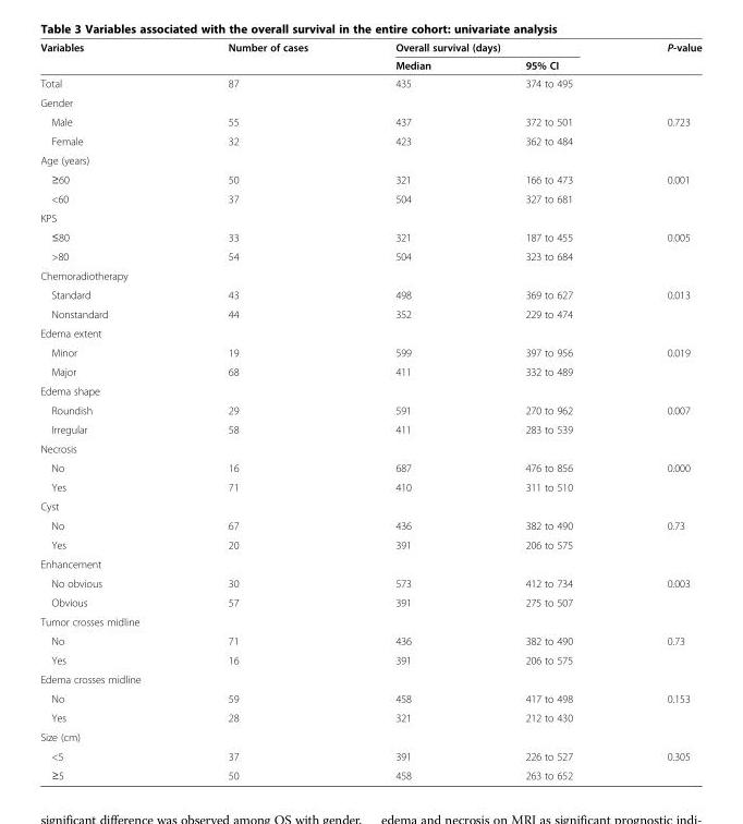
<table><thead><tr><td rowspan="2">Variables</td><td rowspan="2">Number of cases</td><td colspan="2">Overall survival (days)</td><td rowspan="2">P-value</td></tr><tr><td>Median</td><td>95% CI</td></tr></thead><tbody><tr><td>Total</td><td>87</td><td>435</td><td>374 to 495</td><td></td></tr><tr><td colspan="5">Gender</td></tr><tr><td>Male</td><td>55</td><td>437</td><td>372 to 501</td><td>0.723</td></tr><tr><td>Female</td><td>32</td><td>423</td><td>362 to 484</td><td></td></tr><tr><td colspan="5">Age (years)</td></tr><tr><td>≥60</td><td>50</td><td>321</td><td>166 to 473</td><td>0.001</td></tr><tr><td>&lt;60</td><td>37</td><td>504</td><td>327 to 681</td><td></td></tr><tr><td colspan="5">KPS</td></tr><tr><td>≤80</td><td>33</td><td>321</td><td>187 to 455</td><td>0.005</td></tr><tr><td>&gt;80</td><td>54</td><td>504</td><td>323 to 684</td><td></td></tr><tr><td colspan="5">Chemoradiotherapy</td></tr><tr><td>Standard</td><td>43</td><td>498</td><td>369 to 627</td><td>0.013</td></tr><tr><td>Nonstandard</td><td>44</td><td>352</td><td>229 to 474</td><td></td></tr><tr><td colspan="5">Edema extent</td></tr><tr><td>Minor</td><td>19</td><td>599</td><td>397 to 956</td><td>0.019</td></tr><tr><td>Major</td><td>68</td><td>411</td><td>332 to 489</td><td></td></tr><tr><td colspan="5">Edema shape</td></tr><tr><td>Roundish</td><td>29</td><td>591</td><td>270 to 962</td><td>0.007</td></tr><tr><td>Irregular</td><td>58</td><td>411</td><td>283 to 539</td><td></td></tr><tr><td colspan="5">Necrosis</td></tr><tr><td>No</td><td>16</td><td>687</td><td>476 to 856</td><td>0.000</td></tr><tr><td>Yes</td><td>71</td><td>410</td><td>311 to 510</td><td></td></tr><tr><td colspan="5">Cyst</td></tr><tr><td>No</td><td>67</td><td>436</td><td>382 to 490</td><td>0.73</td></tr><tr><td>Yes</td><td>20</td><td>391</td><td>206 to 575</td><td></td></tr><tr><td colspan="5">Enhancement</td></tr><tr><td>No obvious</td><td>30</td><td>573</td><td>412 to 734</td><td>0.003</td></tr><tr><td>Obvious</td><td>57</td><td>391</td><td>275 to 507</td><td></td></tr><tr><td colspan="5">Tumor crosses midline</td></tr><tr><td>No</td><td>71</td><td>436</td><td>382 to 490</td><td>0.73</td></tr><tr><td>Yes</td><td>16</td><td>391</td><td>206 to 575</td><td></td></tr><tr><td colspan="5">Edema crosses midline</td></tr><tr><td>No</td><td>59</td><td>458</td><td>417 to 498</td><td>0.153</td></tr><tr><td>Yes</td><td>28</td><td>321</td><td>212 to 430</td><td></td></tr><tr><td colspan="5">Size (cm)</td></tr><tr><td>&lt;5</td><td>37</td><td>391</td><td>226 to 527</td><td>0.305</td></tr><tr><td>≥5</td><td>50</td><td>458</td><td>263 to 652</td><td></td></tr></tbody></table>